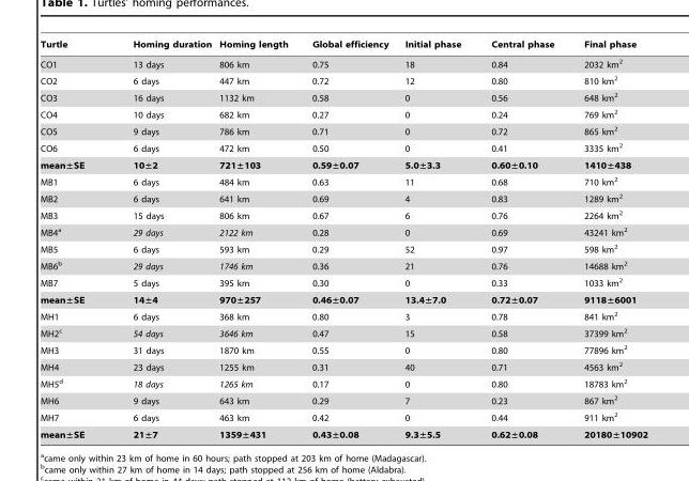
<table><thead><tr><td>Turtle</td><td>Homing duration</td><td>Homing length</td><td>Global efficiency</td><td>Initial phase</td><td>Central phase</td><td>Final phase</td></tr></thead><tbody><tr><td>CO1</td><td>13 days</td><td>806 km</td><td>0.75</td><td>18</td><td>0.84</td><td>2032 km<sup>2</sup></td></tr><tr><td>CO2</td><td>6 days</td><td>447 km</td><td>0.72</td><td>12</td><td>0.80</td><td>810 km<sup>2</sup></td></tr><tr><td>CO3</td><td>16 days</td><td>1132 km</td><td>0.58</td><td>0</td><td>0.56</td><td>648 km<sup>2</sup></td></tr><tr><td>CO4</td><td>10 days</td><td>682 km</td><td>0.27</td><td>0</td><td>0.24</td><td>769 km<sup>2</sup></td></tr><tr><td>CO5</td><td>9 days</td><td>786 km</td><td>0.71</td><td>0</td><td>0.72</td><td>865 km<sup>2</sup></td></tr><tr><td>CO6</td><td>6 days</td><td>472 km</td><td>0.50</td><td>0</td><td>0.41</td><td>3335 km<sup>2</sup></td></tr><tr><td>mean±SE</td><td>10±2</td><td>721±103</td><td>0.59±0.07</td><td>5.0±3.3</td><td>0.60±0.10</td><td>1410±438</td></tr><tr><td>MB1</td><td>6 days</td><td>484 km</td><td>0.63</td><td>11</td><td>0.68</td><td>710 km<sup>2</sup></td></tr><tr><td>MB2</td><td>6 days</td><td>641 km</td><td>0.69</td><td>4</td><td>0.83</td><td>1289 km<sup>2</sup></td></tr><tr><td>MB3</td><td>15 days</td><td>806 km</td><td>0.67</td><td>6</td><td>0.76</td><td>2264 km<sup>2</sup></td></tr><tr><td>MB4<sup>a</sup></td><td>29 days</td><td>2122 km</td><td>0.28</td><td>0</td><td>0.69</td><td>43241 km<sup>2</sup></td></tr><tr><td>MB5</td><td>6 days</td><td>593 km</td><td>0.29</td><td>52</td><td>0.97</td><td>598 km<sup>2</sup></td></tr><tr><td>MB6<sup>b</sup></td><td>29 days</td><td>1746 km</td><td>0.36</td><td>21</td><td>0.76</td><td>14688 km<sup>2</sup></td></tr><tr><td>MB7</td><td>5 days</td><td>395 km</td><td>0.30</td><td>0</td><td>0.33</td><td>1033 km<sup>2</sup></td></tr><tr><td>mean±SE</td><td>14±4</td><td>970±257</td><td>0.46±0.07</td><td>13.4±7.0</td><td>0.72±0.07</td><td>9118±6001</td></tr><tr><td>MH1</td><td>6 days</td><td>368 km</td><td>0.80</td><td>3</td><td>0.78</td><td>841 km<sup>2</sup></td></tr><tr><td>MH2<sup>c</sup></td><td>54 days</td><td>3646 km</td><td>0.47</td><td>15</td><td>0.58</td><td>37399 km<sup>2</sup></td></tr><tr><td>MH3</td><td>31 days</td><td>1870 km</td><td>0.55</td><td>0</td><td>0.80</td><td>77896 km<sup>2</sup></td></tr><tr><td>MH4</td><td>23 days</td><td>1255 km</td><td>0.31</td><td>40</td><td>0.71</td><td>4563 km<sup>2</sup></td></tr><tr><td>MH5<sup>d</sup></td><td>18 days</td><td>1265 km</td><td>0.17</td><td>0</td><td>0.80</td><td>18783 km<sup>2</sup></td></tr><tr><td>MH6</td><td>9 days</td><td>643 km</td><td>0.29</td><td>7</td><td>0.23</td><td>867 km<sup>2</sup></td></tr><tr><td>MH7</td><td>6 days</td><td>463 km</td><td>0.42</td><td>0</td><td>0.44</td><td>911 km<sup>2</sup></td></tr><tr><td>mean±SE</td><td>21±7</td><td>1359±431</td><td>0.43±0.08</td><td>9.3±5.5</td><td>0.62±0.08</td><td>20180±10902</td></tr></tbody></table>